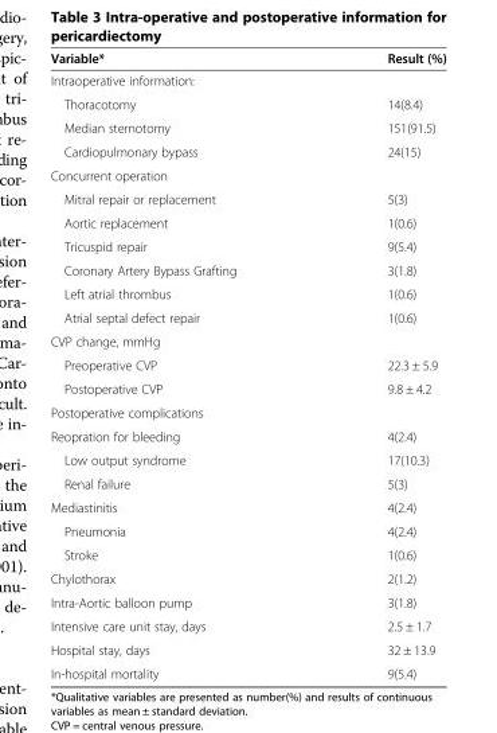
<table><thead><tr><td>Variable*</td><td>Result (%)</td></tr></thead><tbody><tr><td colspan="2">Intraoperative information:</td></tr><tr><td>Thoracotomy</td><td>14(8.4)</td></tr><tr><td>Median sternotomy</td><td>151(91.5)</td></tr><tr><td>Cardiopulmonary bypass</td><td>24(15)</td></tr><tr><td colspan="2">Concurrent operation</td></tr><tr><td>Mitral repair or replacement</td><td>5(3)</td></tr><tr><td>Aortic replacement</td><td>1(0.6)</td></tr><tr><td>Tricuspid repair</td><td>9(5.4)</td></tr><tr><td>Coronary Artery Bypass Grafting</td><td>3(1.8)</td></tr><tr><td>Left atrial thrombus</td><td>1(0.6)</td></tr><tr><td>Atrial septal defect repair</td><td>1(0.6)</td></tr><tr><td colspan="2">CVP change, mmHg</td></tr><tr><td>Preoperative CVP</td><td>22.3 ± 5.9</td></tr><tr><td>Postoperative CVP</td><td>9.8 ± 4.2</td></tr><tr><td colspan="2">Postoperative complications</td></tr><tr><td>Reopration for bleeding</td><td>4(2.4)</td></tr><tr><td>Low output syndrome</td><td>17(10.3)</td></tr><tr><td>Renal failure</td><td>5(3)</td></tr><tr><td>Mediastinitis</td><td>4(2.4)</td></tr><tr><td>Pneumonia</td><td>4(2.4)</td></tr><tr><td>Stroke</td><td>1(0.6)</td></tr><tr><td>Chylothorax</td><td>2(1.2)</td></tr><tr><td>Intra-Aortic balloon pump</td><td>3(1.8)</td></tr><tr><td>Intensive care unit stay, days</td><td>2.5 ± 1.7</td></tr><tr><td>Hospital stay, days</td><td>32 ± 13.9</td></tr><tr><td>In-hospital mortality</td><td>9(5.4)</td></tr></tbody></table>